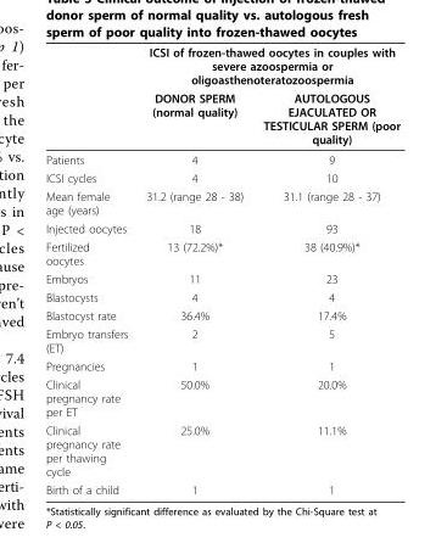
<table><thead><tr><td rowspan="2"></td><td colspan="2">ICSI of frozen-thawed oocytes in couples with severe azoospermia or oligoasthenoteratozoospermia</td></tr><tr><td>DONOR SPERM (normal quality)</td><td>AUTOLOGOUS EJACULATED OR TESTICULAR SPERM (poor quality)</td></tr></thead><tbody><tr><td>Patients</td><td>4</td><td>9</td></tr><tr><td>ICSI cycles</td><td>4</td><td>10</td></tr><tr><td>Mean female age (years)</td><td>31.2 (range 28 - 38)</td><td>31.1 (range 28 - 37)</td></tr><tr><td>Injected oocytes</td><td>18</td><td>93</td></tr><tr><td>Fertilized oocytes</td><td>13 (72.2%)*</td><td>38 (40.9%)*</td></tr><tr><td>Embryos</td><td>11</td><td>23</td></tr><tr><td>Blastocysts</td><td>4</td><td>4</td></tr><tr><td>Blastocyst rate</td><td>36.4%</td><td>17.4%</td></tr><tr><td>Embryo transfers (ET)</td><td>2</td><td>5</td></tr><tr><td>Pregnancies</td><td>1</td><td>1</td></tr><tr><td>Clinical pregnancy rate per ET</td><td>50.0%</td><td>20.0%</td></tr><tr><td>Clinical pregnancy rate per thawing cycle</td><td>25.0%</td><td>11.1%</td></tr><tr><td>Birth of a child</td><td>1</td><td>1</td></tr></tbody></table>